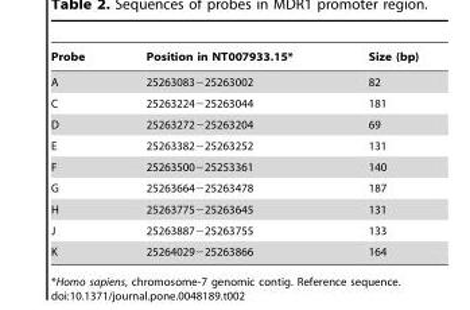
<table><thead><tr><td>Probe</td><td>Position in NT007933.15*</td><td>Size (bp)</td></tr></thead><tbody><tr><td>A</td><td>25263083−25263002</td><td>82</td></tr><tr><td>C</td><td>25263224−25263044</td><td>181</td></tr><tr><td>D</td><td>25263272−25263204</td><td>69</td></tr><tr><td>E</td><td>25263382−25263252</td><td>131</td></tr><tr><td>F</td><td>25263500−25253361</td><td>140</td></tr><tr><td>G</td><td>25263664−25263478</td><td>187</td></tr><tr><td>H</td><td>25263775−25263645</td><td>131</td></tr><tr><td>J</td><td>25263887−25263755</td><td>133</td></tr><tr><td>K</td><td>25264029−25263866</td><td>164</td></tr></tbody></table>